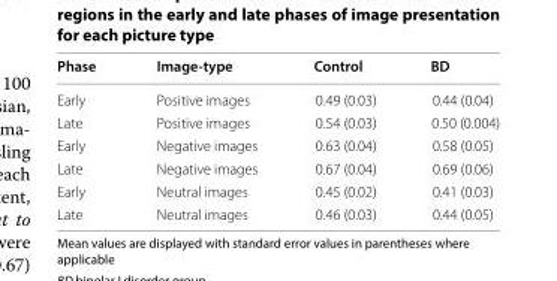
<table><thead><tr><td>Phase</td><td>Image‑type</td><td>Control</td><td>BD</td></tr></thead><tbody><tr><td>Early</td><td>Positive images</td><td>0.49 (0.03)</td><td>0.44 (0.04)</td></tr><tr><td>Late</td><td>Positive images</td><td>0.54 (0.03)</td><td>0.50 (0.004)</td></tr><tr><td>Early</td><td>Negative images</td><td>0.63 (0.04)</td><td>0.58 (0.05)</td></tr><tr><td>Late</td><td>Negative images</td><td>0.67 (0.04)</td><td>0.69 (0.06)</td></tr><tr><td>Early</td><td>Neutral images</td><td>0.45 (0.02)</td><td>0.41 (0.03)</td></tr><tr><td>Late</td><td>Neutral images</td><td>0.46 (0.03)</td><td>0.44 (0.05)</td></tr></tbody></table>